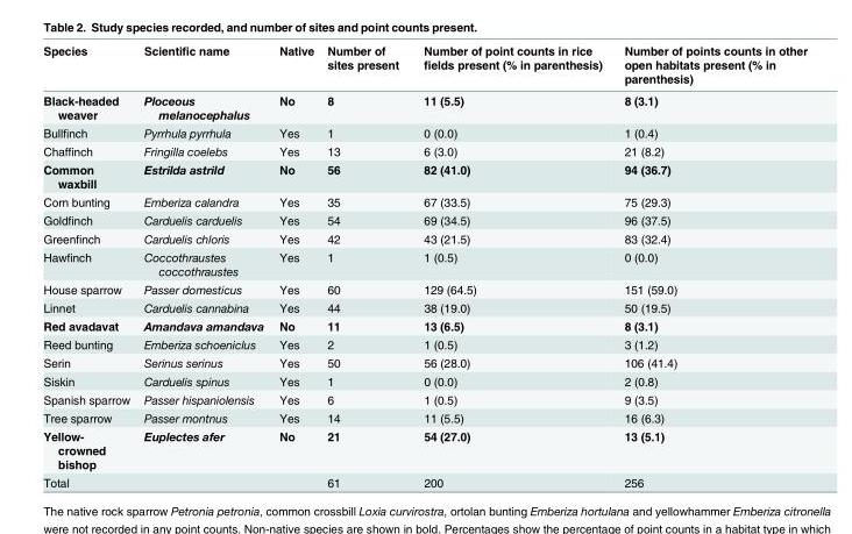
<table><thead><tr><td>Species</td><td>Scientific name</td><td>Native</td><td>Number of sites present</td><td>Number of point counts in rice fields present (% in parenthesis)</td><td>Number of points counts in other open habitats present (% in parenthesis)</td></tr></thead><tbody><tr><td>Black-headed weaver</td><td>Ploceous melanocephalus</td><td>No</td><td>8</td><td>11 (5.5)</td><td>8 (3.1)</td></tr><tr><td>Bullfinch</td><td>Pyrrhula pyrrhula</td><td>Yes</td><td>1</td><td>0 (0.0)</td><td>1 (0.4)</td></tr><tr><td>Chaffinch</td><td>Fringilla coelebs</td><td>Yes</td><td>13</td><td>6 (3.0)</td><td>21 (8.2)</td></tr><tr><td>Common waxbill</td><td>Estrilda astrild</td><td>No</td><td>56</td><td>82 (41.0)</td><td>94 (36.7)</td></tr><tr><td>Corn bunting</td><td>Emberiza calandra</td><td>Yes</td><td>35</td><td>67 (33.5)</td><td>75 (29.3)</td></tr><tr><td>Goldfinch</td><td>Carduelis carduelis</td><td>Yes</td><td>54</td><td>69 (34.5)</td><td>96 (37.5)</td></tr><tr><td>Greenfinch</td><td>Carduelis chloris</td><td>Yes</td><td>42</td><td>43 (21.5)</td><td>83 (32.4)</td></tr><tr><td>Hawfinch</td><td>Coccothraustes coccothraustes</td><td>Yes</td><td>1</td><td>1 (0.5)</td><td>0 (0.0)</td></tr><tr><td>House sparrow</td><td>Passer domesticus</td><td>Yes</td><td>60</td><td>129 (64.5)</td><td>151 (59.0)</td></tr><tr><td>Linnet</td><td>Carduelis cannabina</td><td>Yes</td><td>44</td><td>38 (19.0)</td><td>50 (19.5)</td></tr><tr><td>Red avadavat</td><td>Amandava amandava</td><td>No</td><td>11</td><td>13 (6.5)</td><td>8 (3.1)</td></tr><tr><td>Reed bunting</td><td>Emberiza schoeniclus</td><td>Yes</td><td>2</td><td>1 (0.5)</td><td>3 (1.2)</td></tr><tr><td>Serin</td><td>Serinus serinus</td><td>Yes</td><td>50</td><td>56 (28.0)</td><td>106 (41.4)</td></tr><tr><td>Siskin</td><td>Carduelis spinus</td><td>Yes</td><td>1</td><td>0 (0.0)</td><td>2 (0.8)</td></tr><tr><td>Spanish sparrow</td><td>Passer hispaniolensis</td><td>Yes</td><td>6</td><td>1 (0.5)</td><td>9 (3.5)</td></tr><tr><td>Tree sparrow</td><td>Passer montnus</td><td>Yes</td><td>14</td><td>11 (5.5)</td><td>16 (6.3)</td></tr><tr><td>Yellow- crowned bishop</td><td>Euplectes afer</td><td>No</td><td>21</td><td>54 (27.0)</td><td>13 (5.1)</td></tr><tr><td>Total</td><td></td><td></td><td>61</td><td>200</td><td>256</td></tr></tbody></table>